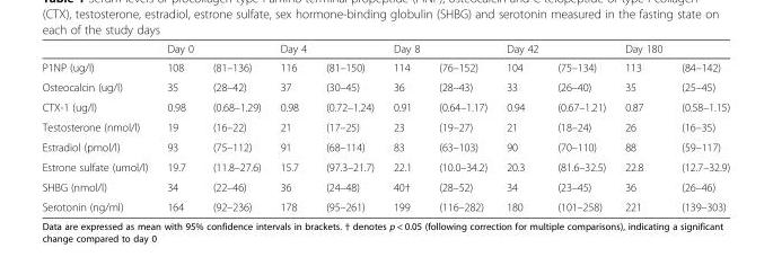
<table><thead><tr><td></td><td>Day 0</td><td></td><td>Day 4</td><td></td><td>Day 8</td><td></td><td>Day 42</td><td></td><td>Day 180</td><td></td></tr></thead><tbody><tr><td>P1NP (ug/l)</td><td>108</td><td>(81–136)</td><td>116</td><td>(81–150)</td><td>114</td><td>(76–152)</td><td>104</td><td>(75–134)</td><td>113</td><td>(84–142)</td></tr><tr><td>Osteocalcin (ug/l)</td><td>35</td><td>(28–42)</td><td>37</td><td>(30–45)</td><td>36</td><td>(28–43)</td><td>33</td><td>(26–40)</td><td>35</td><td>(25–45)</td></tr><tr><td>CTX-1 (ug/l)</td><td>0.98</td><td>(0.68–1.29)</td><td>0.98</td><td>(0.72–1.24)</td><td>0.91</td><td>(0.64–1.17)</td><td>0.94</td><td>(0.67–1.21)</td><td>0.87</td><td>(0.58–1.15)</td></tr><tr><td>Testosterone (nmol/l)</td><td>19</td><td>(16–22)</td><td>21</td><td>(17–25)</td><td>23</td><td>(19–27)</td><td>21</td><td>(18–24)</td><td>26</td><td>(16–35)</td></tr><tr><td>Estradiol (pmol/l)</td><td>93</td><td>(75–112)</td><td>91</td><td>(68–114)</td><td>83</td><td>(63–103)</td><td>90</td><td>(70–110)</td><td>88</td><td>(59–117)</td></tr><tr><td>Estrone sulfate (umol/l)</td><td>19.7</td><td>(11.8–27.6)</td><td>15.7</td><td>(97.3–21.7)</td><td>22.1</td><td>(10.0–34.2)</td><td>20.3</td><td>(81.6–32.5)</td><td>22.8</td><td>(12.7–32.9)</td></tr><tr><td>SHBG (nmol/l)</td><td>34</td><td>(22–46)</td><td>36</td><td>(24–48)</td><td>40†</td><td>(28–52)</td><td>34</td><td>(23–45)</td><td>36</td><td>(26–46)</td></tr><tr><td>Serotonin (ng/ml)</td><td>164</td><td>(92–236)</td><td>178</td><td>(95–261)</td><td>199</td><td>(116–282)</td><td>180</td><td>(101–258)</td><td>221</td><td>(139–303)</td></tr></tbody></table>